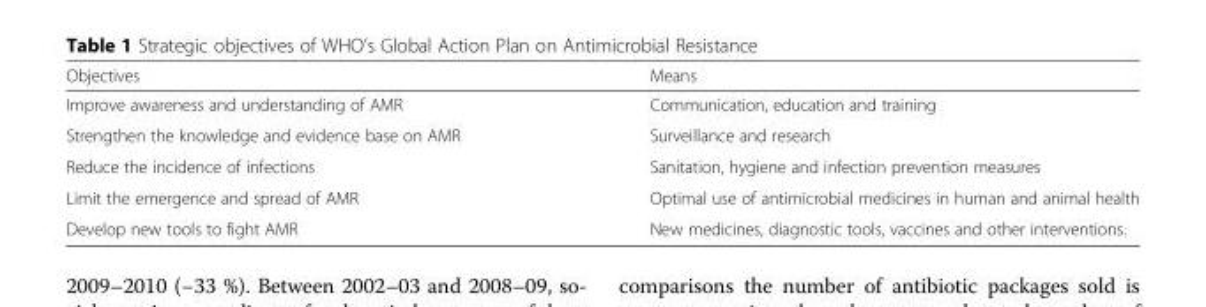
<table><thead><tr><td>Objectives</td><td>Means</td></tr></thead><tbody><tr><td>Improve awareness and understanding of AMR</td><td>Communication, education and training</td></tr><tr><td>Strengthen the knowledge and evidence base on AMR</td><td>Surveillance and research</td></tr><tr><td>Reduce the incidence of infections</td><td>Sanitation, hygiene and infection prevention measures</td></tr><tr><td>Limit the emergence and spread of AMR</td><td>Optimal use of antimicrobial medicines in human and animal health</td></tr><tr><td>Develop new tools to fight AMR</td><td>New medicines, diagnostic tools, vaccines and other interventions.</td></tr></tbody></table>